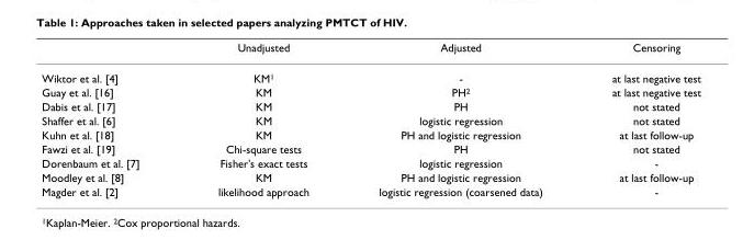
<table><thead><tr><td></td><td>Unadjusted</td><td>Adjusted</td><td>Censoring</td></tr></thead><tbody><tr><td>Wiktor et al. [4]</td><td>KM<sup>1</sup></td><td>-</td><td>at last negative test</td></tr><tr><td>Guay et al. [16]</td><td>KM</td><td>PH<sup>2</sup></td><td>at last negative test</td></tr><tr><td>Dabis et al. [17]</td><td>KM</td><td>PH</td><td>not stated</td></tr><tr><td>Shaffer et al. [6]</td><td>KM</td><td>logistic regression</td><td>not stated</td></tr><tr><td>Kuhn et al. [18]</td><td>KM</td><td>PH and logistic regression</td><td>at last follow-up</td></tr><tr><td>Fawzi et al. [19]</td><td>Chi-square tests</td><td>PH</td><td>not stated</td></tr><tr><td>Dorenbaum et al. [7]</td><td>Fisher&#x27;s exact tests</td><td>logistic regression</td><td>-</td></tr><tr><td>Moodley et al. [8]</td><td>KM</td><td>PH and logistic regression</td><td>at last follow-up</td></tr><tr><td>Magder et al. [2]</td><td>likelihood approach</td><td>logistic regression (coarsened data)</td><td>-</td></tr></tbody></table>